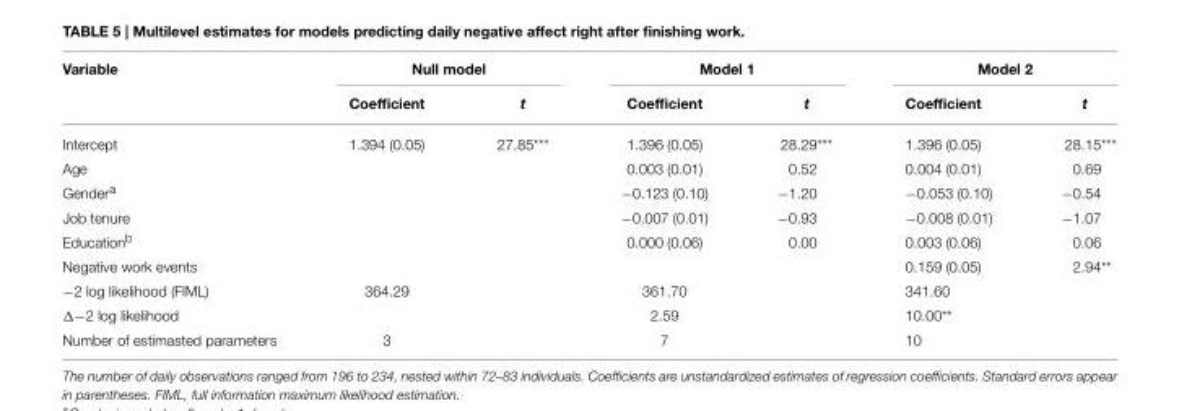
<table><thead><tr><td rowspan="2">Variable</td><td colspan="2">Null model</td><td colspan="2">Model 1</td><td colspan="2">Model 2</td></tr><tr><td>Coefficient</td><td>t</td><td>Coefficient</td><td>t</td><td>Coefficient</td><td>t</td></tr></thead><tbody><tr><td>Intercept</td><td>1.394 (0.05)</td><td>27.85***</td><td>1.396 (0.05)</td><td>28.29***</td><td>1.396 (0.05)</td><td>28.15***</td></tr><tr><td>Age</td><td></td><td></td><td>0.003 (0.01)</td><td>0.52</td><td>0.004 (0.01)</td><td>0.69</td></tr><tr><td>Gender<sup>a</sup></td><td></td><td></td><td>−0.123 (0.10)</td><td>−1.20</td><td>−0.053 (0.10)</td><td>−0.54</td></tr><tr><td>Job tenure</td><td></td><td></td><td>−0.007 (0.01)</td><td>−0.93</td><td>−0.008 (0.01)</td><td>−1.07</td></tr><tr><td>Education<sup>b</sup></td><td></td><td></td><td>0.000 (0.06)</td><td>0.00</td><td>0.003 (0.06)</td><td>0.06</td></tr><tr><td>Negative work events</td><td></td><td></td><td></td><td></td><td>0.159 (0.05)</td><td>2.94**</td></tr><tr><td>−2 log likelihood (FIML)</td><td>364.29</td><td></td><td>361.70</td><td></td><td>341.60</td><td></td></tr><tr><td>Δ−2 log likelihood</td><td></td><td></td><td>2.59</td><td></td><td>10.00**</td><td></td></tr><tr><td>Number of estimasted parameters</td><td>3</td><td></td><td>7</td><td></td><td>10</td><td></td></tr></tbody></table>